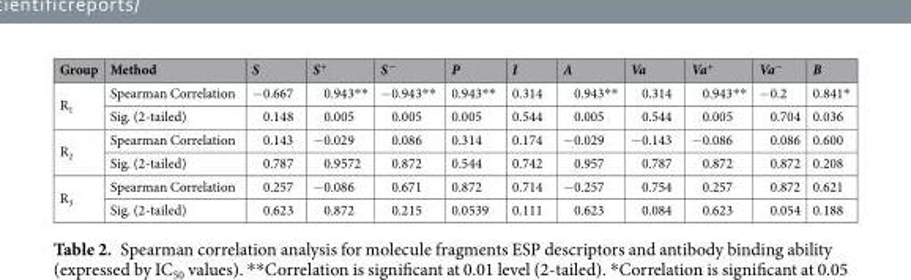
<table><thead><tr><td>Group</td><td>Method</td><td>S</td><td>S<sup>+</sup></td><td>S<sup>−</sup></td><td>P</td><td>I</td><td>A</td><td>Va</td><td>Va<sup>+</sup></td><td>Va<sup>−</sup></td><td>B</td></tr></thead><tbody><tr><td rowspan="2">R<sub>1</sub></td><td>Spearman Correlation</td><td>−0.667</td><td>0.943**</td><td>−0.943**</td><td>0.943**</td><td>0.314</td><td>0.943**</td><td>0.314</td><td>0.943**</td><td>−0.2</td><td>0.841*</td></tr><tr><td>Sig. (2-tailed)</td><td>0.148</td><td>0.005</td><td>0.005</td><td>0.005</td><td>0.544</td><td>0.005</td><td>0.544</td><td>0.005</td><td>0.704</td><td>0.036</td></tr><tr><td rowspan="2">R<sub>2</sub></td><td>Spearman Correlation</td><td>0.143</td><td>−0.029</td><td>0.086</td><td>0.314</td><td>0.174</td><td>−0.029</td><td>−0.143</td><td>−0.086</td><td>0.086</td><td>0.600</td></tr><tr><td>Sig. (2-tailed)</td><td>0.787</td><td>0.9572</td><td>0.872</td><td>0.544</td><td>0.742</td><td>0.957</td><td>0.787</td><td>0.872</td><td>0.872</td><td>0.208</td></tr><tr><td rowspan="2">R<sub>3</sub></td><td>Spearman Correlation</td><td>0.257</td><td>−0.086</td><td>0.671</td><td>0.872</td><td>0.714</td><td>−0.257</td><td>0.754</td><td>0.257</td><td>0.872</td><td>0.621</td></tr><tr><td>Sig. (2-tailed)</td><td>0.623</td><td>0.872</td><td>0.215</td><td>0.0539</td><td>0.111</td><td>0.623</td><td>0.084</td><td>0.623</td><td>0.054</td><td>0.188</td></tr></tbody></table>